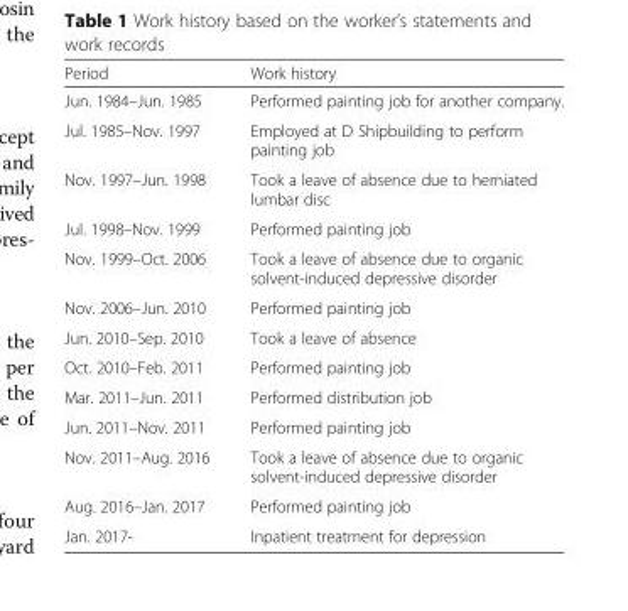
<table><thead><tr><td>Period</td><td>Work history</td></tr></thead><tbody><tr><td>Jun. 1984–Jun. 1985</td><td>Performed painting job for another company.</td></tr><tr><td>Jul. 1985–Nov. 1997</td><td>Employed at D Shipbuilding to perform painting job</td></tr><tr><td>Nov. 1997–Jun. 1998</td><td>Took a leave of absence due to herniated lumbar disc</td></tr><tr><td>Jul. 1998–Nov. 1999</td><td>Performed painting job</td></tr><tr><td>Nov. 1999–Oct. 2006</td><td>Took a leave of absence due to organic solvent-induced depressive disorder</td></tr><tr><td>Nov. 2006–Jun. 2010</td><td>Performed painting job</td></tr><tr><td>Jun. 2010–Sep. 2010</td><td>Took a leave of absence</td></tr><tr><td>Oct. 2010–Feb. 2011</td><td>Performed painting job</td></tr><tr><td>Mar. 2011–Jun. 2011</td><td>Performed distribution job</td></tr><tr><td>Jun. 2011–Nov. 2011</td><td>Performed painting job</td></tr><tr><td>Nov. 2011–Aug. 2016</td><td>Took a leave of absence due to organic solvent-induced depressive disorder</td></tr><tr><td>Aug. 2016–Jan. 2017</td><td>Performed painting job</td></tr><tr><td>Jan. 2017-</td><td>Inpatient treatment for depression</td></tr></tbody></table>